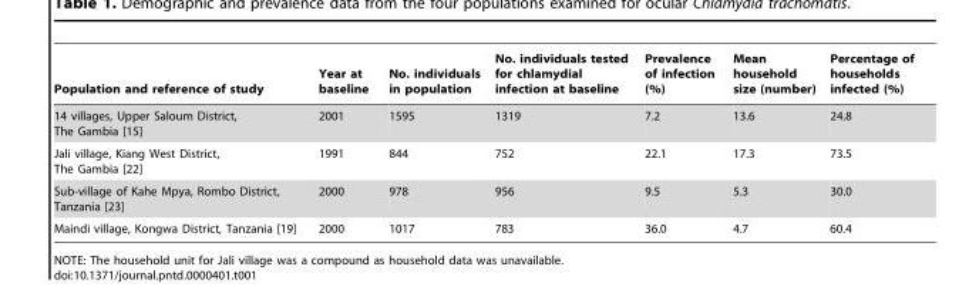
<table><thead><tr><td>Population and reference of study</td><td>Year at baseline</td><td>No. individuals in population</td><td>No. individuals tested for chlamydial infection at baseline</td><td>Prevalence of infection (%)</td><td>Mean household size (number)</td><td>Percentage of households infected (%)</td></tr></thead><tbody><tr><td>14 villages, Upper Saloum District, The Gambia [15]</td><td>2001</td><td>1595</td><td>1319</td><td>7.2</td><td>13.6</td><td>24.8</td></tr><tr><td>Jali village, Kiang West District, The Gambia [22]</td><td>1991</td><td>844</td><td>752</td><td>22.1</td><td>17.3</td><td>73.5</td></tr><tr><td>Sub-village of Kahe Mpya, Rombo District, Tanzania [23]</td><td>2000</td><td>978</td><td>956</td><td>9.5</td><td>5.3</td><td>30.0</td></tr><tr><td>Maindi village, Kongwa District, Tanzania [19]</td><td>2000</td><td>1017</td><td>783</td><td>36.0</td><td>4.7</td><td>60.4</td></tr></tbody></table>